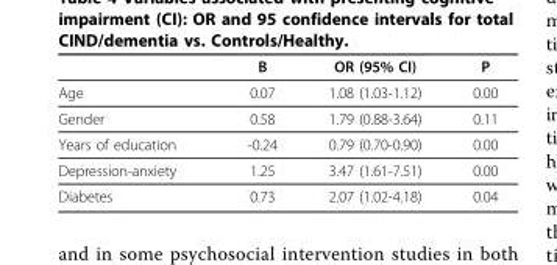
<table><thead><tr><td></td><td>B</td><td>OR (95% CI)</td><td>P</td></tr></thead><tbody><tr><td>Age</td><td>0.07</td><td>1.08 (1.03-1.12)</td><td>0.00</td></tr><tr><td>Gender</td><td>0.58</td><td>1.79 (0.88-3.64)</td><td>0.11</td></tr><tr><td>Years of education</td><td>-0.24</td><td>0.79 (0.70-0.90)</td><td>0.00</td></tr><tr><td>Depression-anxiety</td><td>1.25</td><td>3.47 (1.61-7.51)</td><td>0.00</td></tr><tr><td>Diabetes</td><td>0.73</td><td>2.07 (1.02-4.18)</td><td>0.04</td></tr></tbody></table>